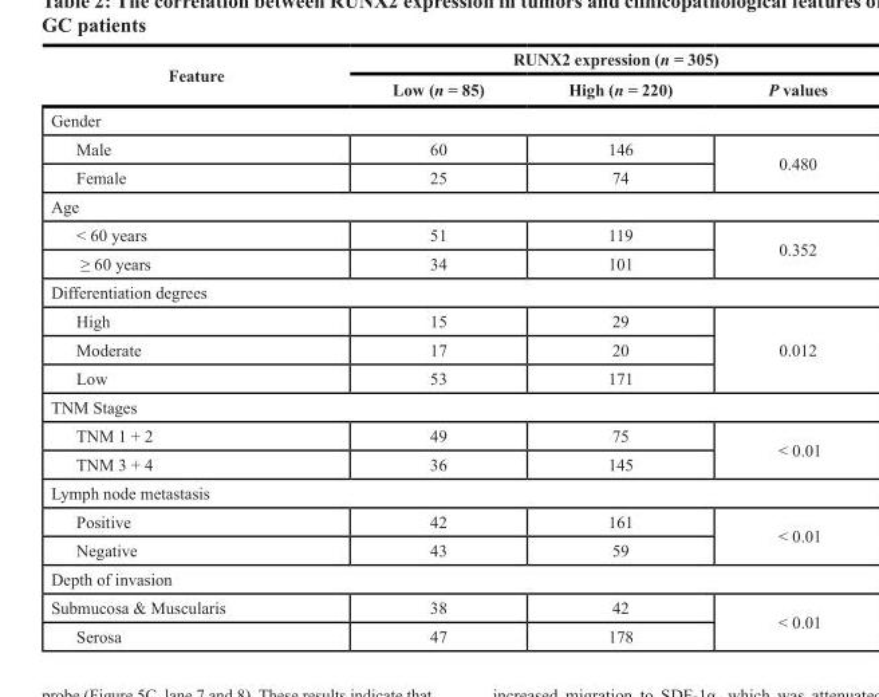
<table><thead><tr><td rowspan="2">Feature</td><td colspan="3">RUNX2 expression (n = 305)</td></tr><tr><td>Low (n = 85)</td><td>High (n = 220)</td><td>P values</td></tr></thead><tbody><tr><td colspan="4">Gender</td></tr><tr><td>Male</td><td>60</td><td>146</td><td rowspan="2">0.480</td></tr><tr><td>Female</td><td>25</td><td>74</td></tr><tr><td colspan="4">Age</td></tr><tr><td>&lt; 60 years</td><td>51</td><td>119</td><td rowspan="2">0.352</td></tr><tr><td>≥ 60 years</td><td>34</td><td>101</td></tr><tr><td colspan="4">Differentiation degrees</td></tr><tr><td>High</td><td>15</td><td>29</td><td rowspan="3">0.012</td></tr><tr><td>Moderate</td><td>17</td><td>20</td></tr><tr><td>Low</td><td>53</td><td>171</td></tr><tr><td colspan="4">TNM Stages</td></tr><tr><td>TNM 1 + 2</td><td>49</td><td>75</td><td rowspan="2">&lt; 0.01</td></tr><tr><td>TNM 3 + 4</td><td>36</td><td>145</td></tr><tr><td colspan="4">Lymph node metastasis</td></tr><tr><td>Positive</td><td>42</td><td>161</td><td rowspan="2">&lt; 0.01</td></tr><tr><td>Negative</td><td>43</td><td>59</td></tr><tr><td colspan="4">Depth of invasion</td></tr><tr><td>Submucosa &amp; Muscularis</td><td>38</td><td>42</td><td rowspan="2">&lt; 0.01</td></tr><tr><td>Serosa</td><td>47</td><td>178</td></tr></tbody></table>